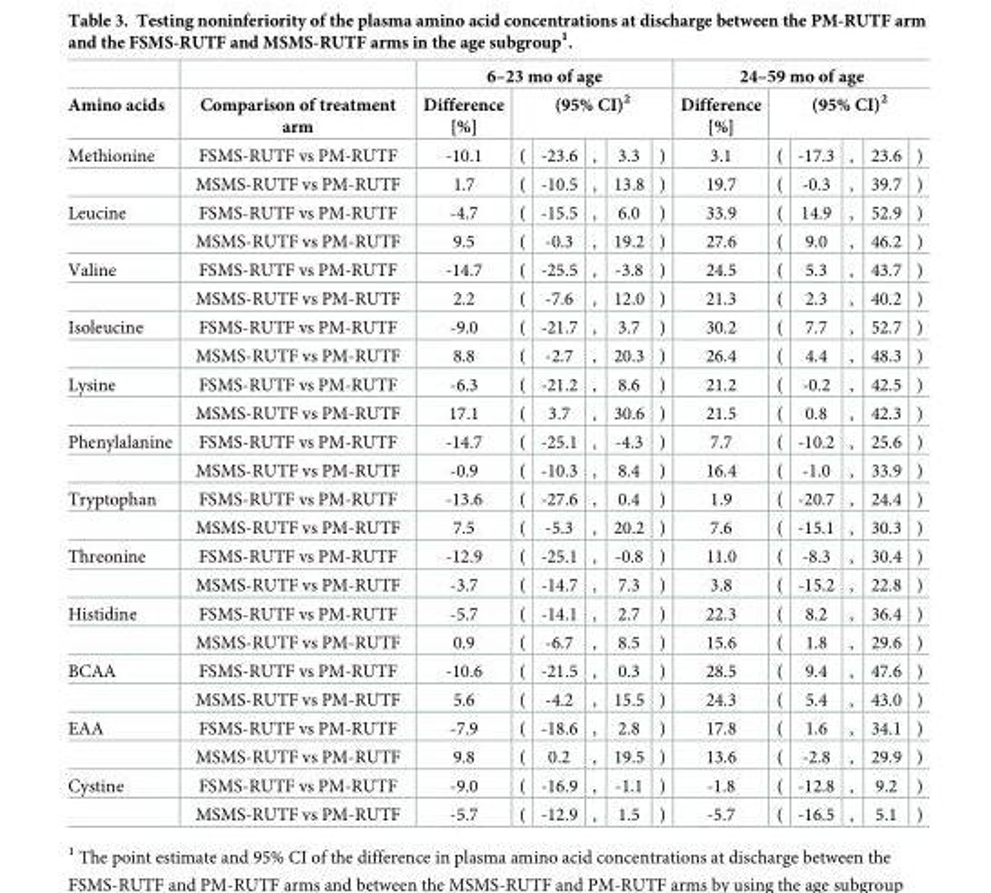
<table><thead><tr><td rowspan="3">Amino acids Methionine</td><td rowspan="3">Comparison of treatment arm FSMS-RUTF vs PM-RUTF</td><td colspan="6">6–23 mo of age</td><td colspan="6">24–59 mo of age</td></tr><tr><td rowspan="2">Difference [%] -10.1</td><td colspan="5">(95% CI)<sup>2</sup></td><td rowspan="2">Difference [%] 3.1</td><td colspan="5">(95% CI)<sup>2</sup></td></tr><tr><td>(</td><td>-23.6</td><td>,</td><td>3.3</td><td>)</td><td>(</td><td>-17.3</td><td>,</td><td>23.6</td><td>)</td></tr></thead><tbody><tr><td></td><td>MSMS-RUTF vs PM-RUTF</td><td>1.7</td><td>(</td><td>-10.5</td><td>,</td><td>13.8</td><td>)</td><td>19.7</td><td>(</td><td>-0.3</td><td>,</td><td>39.7</td><td>)</td></tr><tr><td rowspan="2">Leucine</td><td>FSMS-RUTF vs PM-RUTF</td><td>-4.7</td><td>(</td><td>-15.5</td><td>,</td><td>6.0</td><td>)</td><td>33.9</td><td>(</td><td>14.9</td><td>,</td><td>52.9</td><td>)</td></tr><tr><td>MSMS-RUTF vs PM-RUTF</td><td>9.5</td><td>(</td><td>-0.3</td><td>,</td><td>19.2</td><td>)</td><td>27.6</td><td>(</td><td>9.0</td><td>,</td><td>46.2</td><td>)</td></tr><tr><td rowspan="2">Valine</td><td>FSMS-RUTF vs PM-RUTF</td><td>-14.7</td><td>(</td><td>-25.5</td><td>,</td><td>-3.8</td><td>)</td><td>24.5</td><td>(</td><td>5.3</td><td>,</td><td>43.7</td><td>)</td></tr><tr><td>MSMS-RUTF vs PM-RUTF</td><td>2.2</td><td>(</td><td>-7.6</td><td>,</td><td>12.0</td><td>)</td><td>21.3</td><td>(</td><td>2.3</td><td>,</td><td>40.2</td><td>)</td></tr><tr><td rowspan="2">Isoleucine</td><td>FSMS-RUTF vs PM-RUTF</td><td>-9.0</td><td>(</td><td>-21.7</td><td>,</td><td>3.7</td><td>)</td><td>30.2</td><td>(</td><td>7.7</td><td>,</td><td>52.7</td><td>)</td></tr><tr><td>MSMS-RUTF vs PM-RUTF</td><td>8.8</td><td>(</td><td>-2.7</td><td>,</td><td>20.3</td><td>)</td><td>26.4</td><td>(</td><td>4.4</td><td>,</td><td>48.3</td><td>)</td></tr><tr><td rowspan="2">Lysine</td><td>FSMS-RUTF vs PM-RUTF</td><td>-6.3</td><td>(</td><td>-21.2</td><td>,</td><td>8.6</td><td>)</td><td>21.2</td><td>(</td><td>-0.2</td><td>,</td><td>42.5</td><td>)</td></tr><tr><td>MSMS-RUTF vs PM-RUTF</td><td>17.1</td><td>(</td><td>3.7</td><td>,</td><td>30.6</td><td>)</td><td>21.5</td><td>(</td><td>0.8</td><td>,</td><td>42.3</td><td>)</td></tr><tr><td rowspan="2">Phenylalanine</td><td>FSMS-RUTF vs PM-RUTF</td><td>-14.7</td><td>(</td><td>-25.1</td><td>,</td><td>-4.3</td><td>)</td><td>7.7</td><td>(</td><td>-10.2</td><td>,</td><td>25.6</td><td>)</td></tr><tr><td>MSMS-RUTF vs PM-RUTF</td><td>-0.9</td><td>(</td><td>-10.3</td><td>,</td><td>8.4</td><td>)</td><td>16.4</td><td>(</td><td>-1.0</td><td>,</td><td>33.9</td><td>)</td></tr><tr><td rowspan="2">Tryptophan</td><td>FSMS-RUTF vs PM-RUTF</td><td>-13.6</td><td>(</td><td>-27.6</td><td>,</td><td>0.4</td><td>)</td><td>1.9</td><td>(</td><td>-20.7</td><td>,</td><td>24.4</td><td>)</td></tr><tr><td>MSMS-RUTF vs PM-RUTF</td><td>7.5</td><td>(</td><td>-5.3</td><td>,</td><td>20.2</td><td>)</td><td>7.6</td><td>(</td><td>-15.1</td><td>,</td><td>30.3</td><td>)</td></tr><tr><td rowspan="2">Threonine</td><td>FSMS-RUTF vs PM-RUTF</td><td>-12.9</td><td>(</td><td>-25.1</td><td>,</td><td>-0.8</td><td>)</td><td>11.0</td><td>(</td><td>-8.3</td><td>,</td><td>30.4</td><td>)</td></tr><tr><td>MSMS-RUTF vs PM-RUTF</td><td>-3.7</td><td>(</td><td>-14.7</td><td>,</td><td>7.3</td><td>)</td><td>3.8</td><td>(</td><td>-15.2</td><td>,</td><td>22.8</td><td>)</td></tr><tr><td rowspan="2">Histidine</td><td>FSMS-RUTF vs PM-RUTF</td><td>-5.7</td><td>(</td><td>-14.1</td><td>,</td><td>2.7</td><td>)</td><td>22.3</td><td>(</td><td>8.2</td><td>,</td><td>36.4</td><td>)</td></tr><tr><td>MSMS-RUTF vs PM-RUTF</td><td>0.9</td><td>(</td><td>-6.7</td><td>,</td><td>8.5</td><td>)</td><td>15.6</td><td>(</td><td>1.8</td><td>,</td><td>29.6</td><td>)</td></tr><tr><td rowspan="2">BCAA</td><td>FSMS-RUTF vs PM-RUTF</td><td>-10.6</td><td>(</td><td>-21.5</td><td>,</td><td>0.3</td><td>)</td><td>28.5</td><td>(</td><td>9.4</td><td>,</td><td>47.6</td><td>)</td></tr><tr><td>MSMS-RUTF vs PM-RUTF</td><td>5.6</td><td>(</td><td>-4.2</td><td>,</td><td>15.5</td><td>)</td><td>24.3</td><td>(</td><td>5.4</td><td>,</td><td>43.0</td><td>)</td></tr><tr><td rowspan="2">EAA</td><td>FSMS-RUTF vs PM-RUTF</td><td>-7.9</td><td>(</td><td>-18.6</td><td>,</td><td>2.8</td><td>)</td><td>17.8</td><td>(</td><td>1.6</td><td>,</td><td>34.1</td><td>)</td></tr><tr><td>MSMS-RUTF vs PM-RUTF</td><td>9.8</td><td>(</td><td>0.2</td><td>,</td><td>19.5</td><td>)</td><td>13.6</td><td>(</td><td>-2.8</td><td>,</td><td>29.9</td><td>)</td></tr><tr><td rowspan="2">Cystine</td><td>FSMS-RUTF vs PM-RUTF</td><td>-9.0</td><td>(</td><td>-16.9</td><td>,</td><td>-1.1</td><td>)</td><td>-1.8</td><td>(</td><td>-12.8</td><td>,</td><td>9.2</td><td>)</td></tr><tr><td>MSMS-RUTF vs PM-RUTF</td><td>-5.7</td><td>(</td><td>-12.9</td><td>,</td><td>1.5</td><td>)</td><td>-5.7</td><td>(</td><td>-16.5</td><td>,</td><td>5.1</td><td>)</td></tr></tbody></table>